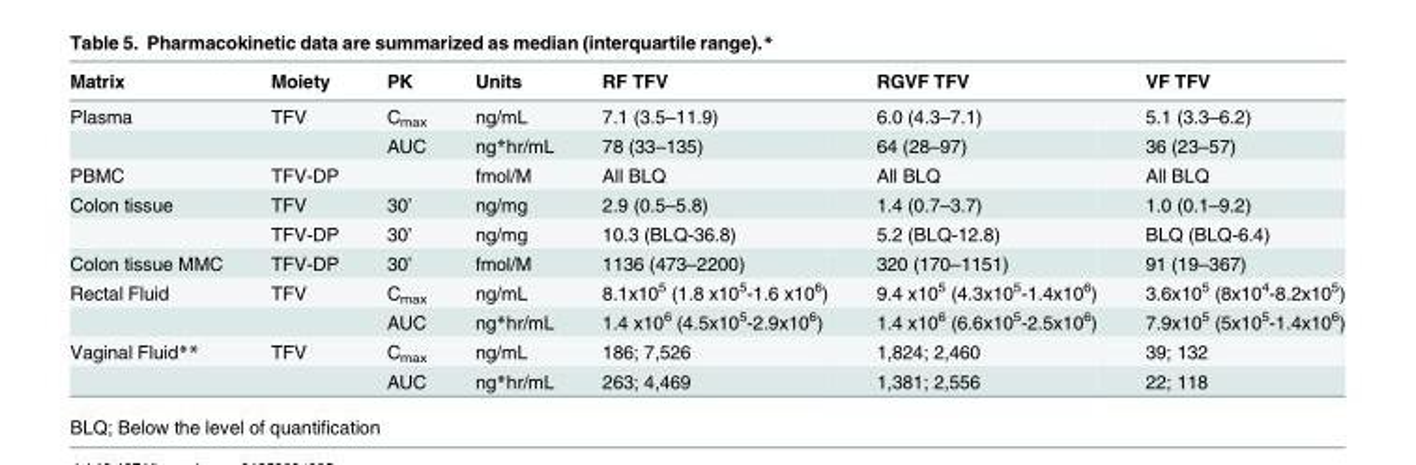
<table><thead><tr><td>Matrix</td><td>Moiety</td><td>PK</td><td>Units</td><td>RF TFV</td><td>RGVF TFV</td><td>VF TFV</td></tr></thead><tbody><tr><td rowspan="2">Plasma</td><td>TFV</td><td>C<sub>max</sub></td><td>ng/mL</td><td>7.1 (3.5–11.9)</td><td>6.0 (4.3–7.1)</td><td>5.1 (3.3–6.2)</td></tr><tr><td></td><td>AUC</td><td>ng*hr/mL</td><td>78 (33–135)</td><td>64 (28–97)</td><td>36 (23–57)</td></tr><tr><td>PBMC</td><td>TFV-DP</td><td></td><td>fmol/M</td><td>All BLQ</td><td>All BLQ</td><td>All BLQ</td></tr><tr><td rowspan="2">Colon tissue</td><td>TFV</td><td>30’</td><td>ng/mg</td><td>2.9 (0.5–5.8)</td><td>1.4 (0.7–3.7)</td><td>1.0 (0.1–9.2)</td></tr><tr><td>TFV-DP</td><td>30’</td><td>ng/mg</td><td>10.3 (BLQ-36.8)</td><td>5.2 (BLQ-12.8)</td><td>BLQ (BLQ-6.4)</td></tr><tr><td>Colon tissue MMC</td><td>TFV-DP</td><td>30’</td><td>fmol/M</td><td>1136 (473–2200)</td><td>320 (170–1151)</td><td>91 (19–367)</td></tr><tr><td rowspan="2">Rectal Fluid</td><td>TFV</td><td>C<sub>max</sub></td><td>ng/mL</td><td>8.1x10<sup>5</sup> (1.8 x10<sup>5</sup>-1.6 x10<sup>6</sup>)</td><td>9.4 x10<sup>5</sup> (4.3x10<sup>5</sup>-1.4x10<sup>6</sup>)</td><td>3.6x10<sup>5</sup> (8x10<sup>4</sup>-8.2x10<sup>5</sup>)</td></tr><tr><td></td><td>AUC</td><td>ng*hr/mL</td><td>1.4 x10<sup>6</sup> (4.5x10<sup>5</sup>-2.9x10<sup>6</sup>)</td><td>1.4 x10<sup>6</sup> (6.6x10<sup>5</sup>-2.5x10<sup>6</sup>)</td><td>7.9x10<sup>5</sup> (5x10<sup>5</sup>-1.4x10<sup>6</sup>)</td></tr><tr><td rowspan="2">Vaginal Fluid**</td><td>TFV</td><td>C<sub>max</sub></td><td>ng/mL</td><td>186; 7,526</td><td>1,824; 2,460</td><td>39; 132</td></tr><tr><td></td><td>AUC</td><td>ng*hr/mL</td><td>263; 4,469</td><td>1,381; 2,556</td><td>22; 118</td></tr></tbody></table>